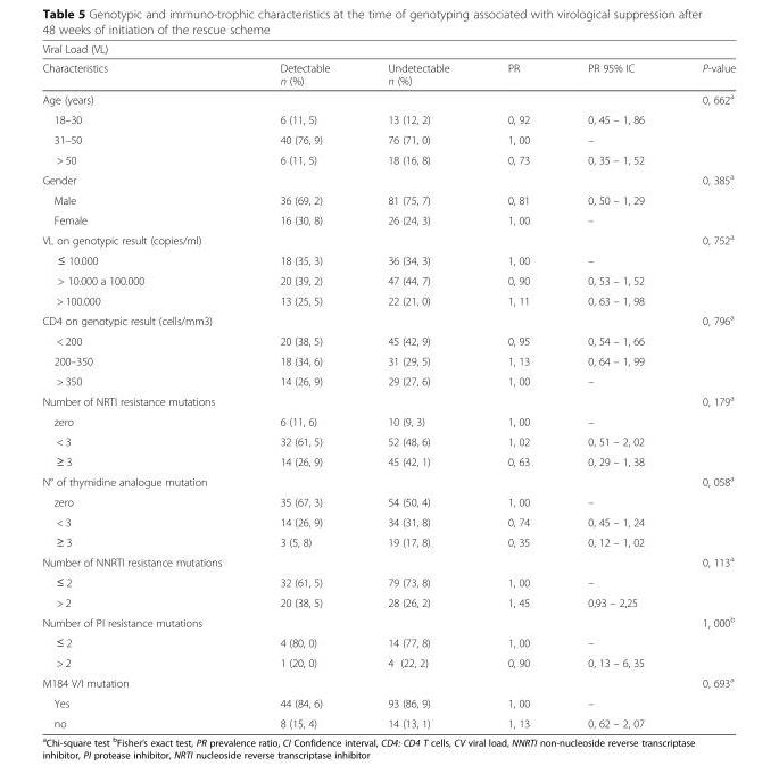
<table><thead><tr><td colspan="6">Viral Load (VL)</td></tr><tr><td>Characteristics</td><td>Detectable n (%)</td><td>Undetectable n (%)</td><td>PR</td><td>PR 95% IC</td><td>P-value</td></tr></thead><tbody><tr><td>Age (years)</td><td></td><td></td><td></td><td></td><td>0, 662<sup>a</sup></td></tr><tr><td>18–30</td><td>6 (11, 5)</td><td>13 (12, 2)</td><td>0, 92</td><td>0, 45 – 1, 86</td><td></td></tr><tr><td>31–50</td><td>40 (76, 9)</td><td>76 (71, 0)</td><td>1, 00</td><td>–</td><td></td></tr><tr><td>&gt; 50</td><td>6 (11, 5)</td><td>18 (16, 8)</td><td>0, 73</td><td>0, 35 – 1, 52</td><td></td></tr><tr><td>Gender</td><td></td><td></td><td></td><td></td><td>0, 385<sup>a</sup></td></tr><tr><td>Male</td><td>36 (69, 2)</td><td>81 (75, 7)</td><td>0, 81</td><td>0, 50 – 1, 29</td><td></td></tr><tr><td>Female</td><td>16 (30, 8)</td><td>26 (24, 3)</td><td>1, 00</td><td>–</td><td></td></tr><tr><td>VL on genotypic result (copies/ml)</td><td></td><td></td><td></td><td></td><td>0, 752<sup>a</sup></td></tr><tr><td>≤ 10.000</td><td>18 (35, 3)</td><td>36 (34, 3)</td><td>1, 00</td><td>–</td><td></td></tr><tr><td>&gt; 10.000 a 100.000</td><td>20 (39, 2)</td><td>47 (44, 7)</td><td>0, 90</td><td>0, 53 – 1, 52</td><td></td></tr><tr><td>&gt; 100.000</td><td>13 (25, 5)</td><td>22 (21, 0)</td><td>1, 11</td><td>0, 63 – 1, 98</td><td></td></tr><tr><td>CD4 on genotypic result (cells/mm3)</td><td></td><td></td><td></td><td></td><td>0, 796<sup>a</sup></td></tr><tr><td>&lt; 200</td><td>20 (38, 5)</td><td>45 (42, 9)</td><td>0, 95</td><td>0, 54 – 1, 66</td><td></td></tr><tr><td>200–350</td><td>18 (34, 6)</td><td>31 (29, 5)</td><td>1, 13</td><td>0, 64 – 1, 99</td><td></td></tr><tr><td>&gt; 350</td><td>14 (26, 9)</td><td>29 (27, 6)</td><td>1, 00</td><td>–</td><td></td></tr><tr><td>Number of NRTI resistance mutations</td><td></td><td></td><td></td><td></td><td>0, 179<sup>a</sup></td></tr><tr><td>zero</td><td>6 (11, 6)</td><td>10 (9, 3)</td><td>1, 00</td><td>–</td><td></td></tr><tr><td>&lt; 3</td><td>32 (61, 5)</td><td>52 (48, 6)</td><td>1, 02</td><td>0, 51 – 2, 02</td><td></td></tr><tr><td>≥ 3</td><td>14 (26, 9)</td><td>45 (42, 1)</td><td>0, 63</td><td>0, 29 – 1, 38</td><td></td></tr><tr><td>N° of thymidine analogue mutation</td><td></td><td></td><td></td><td></td><td>0, 058<sup>a</sup></td></tr><tr><td>zero</td><td>35 (67, 3)</td><td>54 (50, 4)</td><td>1, 00</td><td>–</td><td></td></tr><tr><td>&lt; 3</td><td>14 (26, 9)</td><td>34 (31, 8)</td><td>0, 74</td><td>0, 45 – 1, 24</td><td></td></tr><tr><td>≥ 3</td><td>3 (5, 8)</td><td>19 (17, 8)</td><td>0, 35</td><td>0, 12 – 1, 02</td><td></td></tr><tr><td>Number of NNRTI resistance mutations</td><td></td><td></td><td></td><td></td><td>0, 113<sup>a</sup></td></tr><tr><td>≤ 2</td><td>32 (61, 5)</td><td>79 (73, 8)</td><td>1, 00</td><td>–</td><td></td></tr><tr><td>&gt; 2</td><td>20 (38, 5)</td><td>28 (26, 2)</td><td>1, 45</td><td>0,93 – 2,25</td><td></td></tr><tr><td>Number of PI resistance mutations</td><td></td><td></td><td></td><td></td><td>1, 000<sup>b</sup></td></tr><tr><td>≤ 2</td><td>4 (80, 0)</td><td>14 (77, 8)</td><td>1, 00</td><td>–</td><td></td></tr><tr><td>&gt; 2</td><td>1 (20, 0)</td><td>4 (22, 2)</td><td>0, 90</td><td>0, 13 – 6, 35</td><td></td></tr><tr><td>M184 V/I mutation</td><td></td><td></td><td></td><td></td><td>0, 693<sup>a</sup></td></tr><tr><td>Yes</td><td>44 (84, 6)</td><td>93 (86, 9)</td><td>1, 00</td><td>–</td><td></td></tr><tr><td>no</td><td>8 (15, 4)</td><td>14 (13, 1)</td><td>1, 13</td><td>0, 62 – 2, 07</td><td></td></tr></tbody></table>